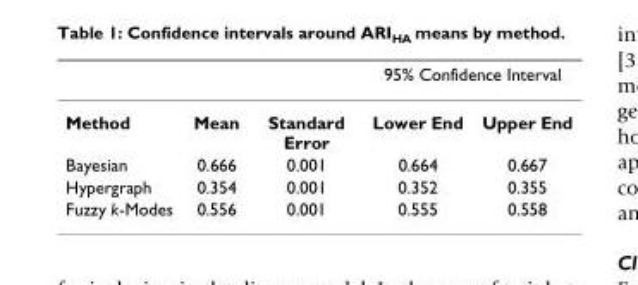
<table><thead><tr><td rowspan="2">Method</td><td rowspan="2">Mean</td><td rowspan="2">Standard Error</td><td colspan="2">95% Confidence Interval</td></tr><tr><td>Lower End</td><td>Upper End</td></tr></thead><tbody><tr><td>Bayesian</td><td>0.666</td><td>0.001</td><td>0.664</td><td>0.667</td></tr><tr><td>Hypergraph</td><td>0.354</td><td>0.001</td><td>0.352</td><td>0.355</td></tr><tr><td>Fuzzy k-Modes</td><td>0.556</td><td>0.001</td><td>0.555</td><td>0.558</td></tr></tbody></table>